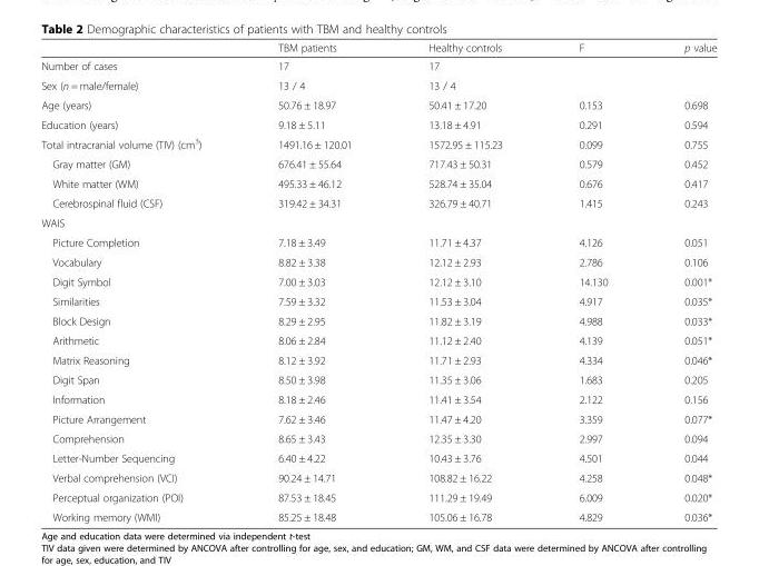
<table><thead><tr><td></td><td>TBM patients</td><td>Healthy controls</td><td>F</td><td>p value</td></tr></thead><tbody><tr><td>Number of cases</td><td>17</td><td>17</td><td></td><td></td></tr><tr><td>Sex (n = male/female)</td><td>13 / 4</td><td>13 / 4</td><td></td><td></td></tr><tr><td>Age (years)</td><td>50.76 ± 18.97</td><td>50.41 ± 17.20</td><td>0.153</td><td>0.698</td></tr><tr><td>Education (years)</td><td>9.18 ± 5.11</td><td>13.18 ± 4.91</td><td>0.291</td><td>0.594</td></tr><tr><td>Total intracranial volume (TIV) (cm<sup>3</sup>)</td><td>1491.16 ± 120.01</td><td>1572.95 ± 115.23</td><td>0.099</td><td>0.755</td></tr><tr><td>Gray matter (GM)</td><td>676.41 ± 55.64</td><td>717.43 ± 50.31</td><td>0.579</td><td>0.452</td></tr><tr><td>White matter (WM)</td><td>495.33 ± 46.12</td><td>528.74 ± 35.04</td><td>0.676</td><td>0.417</td></tr><tr><td>Cerebrospinal fluid (CSF)</td><td>319.42 ± 34.31</td><td>326.79 ± 40.71</td><td>1.415</td><td>0.243</td></tr><tr><td colspan="5">WAIS</td></tr><tr><td>Picture Completion</td><td>7.18 ± 3.49</td><td>11.71 ± 4.37</td><td>4.126</td><td>0.051</td></tr><tr><td>Vocabulary</td><td>8.82 ± 3.38</td><td>12.12 ± 2.93</td><td>2.786</td><td>0.106</td></tr><tr><td>Digit Symbol</td><td>7.00 ± 3.03</td><td>12.12 ± 3.10</td><td>14.130</td><td>0.001*</td></tr><tr><td>Similarities</td><td>7.59 ± 3.32</td><td>11.53 ± 3.04</td><td>4.917</td><td>0.035*</td></tr><tr><td>Block Design</td><td>8.29 ± 2.95</td><td>11.82 ± 3.19</td><td>4.988</td><td>0.033*</td></tr><tr><td>Arithmetic</td><td>8.06 ± 2.84</td><td>11.12 ± 2.40</td><td>4.139</td><td>0.051*</td></tr><tr><td>Matrix Reasoning</td><td>8.12 ± 3.92</td><td>11.71 ± 2.93</td><td>4.334</td><td>0.046*</td></tr><tr><td>Digit Span</td><td>8.50 ± 3.98</td><td>11.35 ± 3.06</td><td>1.683</td><td>0.205</td></tr><tr><td>Information</td><td>8.18 ± 2.46</td><td>11.41 ± 3.54</td><td>2.122</td><td>0.156</td></tr><tr><td>Picture Arrangement</td><td>7.62 ± 3.46</td><td>11.47 ± 4.20</td><td>3.359</td><td>0.077*</td></tr><tr><td>Comprehension</td><td>8.65 ± 3.43</td><td>12.35 ± 3.30</td><td>2.997</td><td>0.094</td></tr><tr><td>Letter-Number Sequencing</td><td>6.40 ± 4.22</td><td>10.43 ± 3.76</td><td>4.501</td><td>0.044</td></tr><tr><td>Verbal comprehension (VCI)</td><td>90.24 ± 14.71</td><td>108.82 ± 16.22</td><td>4.258</td><td>0.048*</td></tr><tr><td>Perceptual organization (POI)</td><td>87.53 ± 18.45</td><td>111.29 ± 19.49</td><td>6.009</td><td>0.020*</td></tr><tr><td>Working memory (WMI)</td><td>85.25 ± 18.48</td><td>105.06 ± 16.78</td><td>4.829</td><td>0.036*</td></tr></tbody></table>